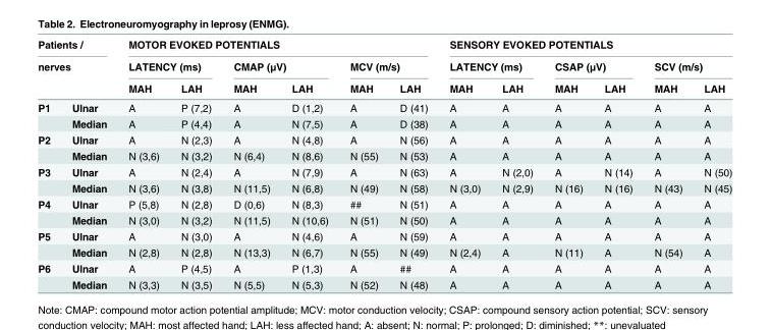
<table><thead><tr><td rowspan="2" colspan="2">Patients / nerves</td><td colspan="6">MOTOR EVOKED POTENTIALS</td><td colspan="6">SENSORY EVOKED POTENTIALS</td></tr><tr><td colspan="2">LATENCY (ms)</td><td colspan="2">CMAP (μV)</td><td colspan="2">MCV (m/s)</td><td colspan="2">LATENCY (ms)</td><td colspan="2">CSAP (μV)</td><td colspan="2">SCV (m/s)</td></tr><tr><td></td><td></td><td>MAH</td><td>LAH</td><td>MAH</td><td>LAH</td><td>MAH</td><td>LAH</td><td>MAH</td><td>LAH</td><td>MAH</td><td>LAH</td><td>MAH</td><td>LAH</td></tr></thead><tbody><tr><td rowspan="2">P1</td><td>Ulnar</td><td>A</td><td>P (7,2)</td><td>A</td><td>D (1,2)</td><td>A</td><td>D (41)</td><td>A</td><td>A</td><td>A</td><td>A</td><td>A</td><td>A</td></tr><tr><td>Median</td><td>A</td><td>P (4,4)</td><td>A</td><td>N (7,5)</td><td>A</td><td>D (38)</td><td>A</td><td>A</td><td>A</td><td>A</td><td>A</td><td>A</td></tr><tr><td rowspan="2">P2</td><td>Ulnar</td><td>A</td><td>N (2,3)</td><td>A</td><td>N (4,8)</td><td>A</td><td>N (56)</td><td>A</td><td>A</td><td>A</td><td>A</td><td>A</td><td>A</td></tr><tr><td>Median</td><td>N (3,6)</td><td>N (3,2)</td><td>N (6,4)</td><td>N (8,6)</td><td>N (55)</td><td>N (53)</td><td>A</td><td>A</td><td>A</td><td>A</td><td>A</td><td>A</td></tr><tr><td rowspan="2">P3</td><td>Ulnar</td><td>A</td><td>N (2,4)</td><td>A</td><td>N (7,9)</td><td>A</td><td>N (63)</td><td>A</td><td>N (2,0)</td><td>A</td><td>N (14)</td><td>A</td><td>N (50)</td></tr><tr><td>Median</td><td>N (3,6)</td><td>N (3,8)</td><td>N (11,5)</td><td>N (6,8)</td><td>N (49)</td><td>N (58)</td><td>N (3,0)</td><td>N (2,9)</td><td>N (16)</td><td>N (16)</td><td>N (43)</td><td>N (45)</td></tr><tr><td rowspan="2">P4</td><td>Ulnar</td><td>P (5,8)</td><td>N (2,8)</td><td>D (0,6)</td><td>N (8,3)</td><td>##</td><td>N (51)</td><td>A</td><td>A</td><td>A</td><td>A</td><td>A</td><td>A</td></tr><tr><td>Median</td><td>N (3,0)</td><td>N (3,2)</td><td>N (11,5)</td><td>N (10,6)</td><td>N (51)</td><td>N (50)</td><td>A</td><td>A</td><td>A</td><td>A</td><td>A</td><td>A</td></tr><tr><td rowspan="2">P5</td><td>Ulnar</td><td>A</td><td>N (3,0)</td><td>A</td><td>N (4,6)</td><td>A</td><td>N (59)</td><td>A</td><td>A</td><td>A</td><td>A</td><td>A</td><td>A</td></tr><tr><td>Median</td><td>N (2,8)</td><td>N (2,8)</td><td>N (13,3)</td><td>N (6,7)</td><td>N (55)</td><td>N (49)</td><td>N (2,4)</td><td>A</td><td>N (11)</td><td>A</td><td>N (54)</td><td>A</td></tr><tr><td rowspan="2">P6</td><td>Ulnar</td><td>A</td><td>P (4,5)</td><td>A</td><td>P (1,3)</td><td>A</td><td>##</td><td>A</td><td>A</td><td>A</td><td>A</td><td>A</td><td>A</td></tr><tr><td>Median</td><td>N (3,3)</td><td>N (3,5)</td><td>N (5,5)</td><td>N (5,3)</td><td>N (52)</td><td>N (48)</td><td>A</td><td>A</td><td>A</td><td>A</td><td>A</td><td>A</td></tr></tbody></table>